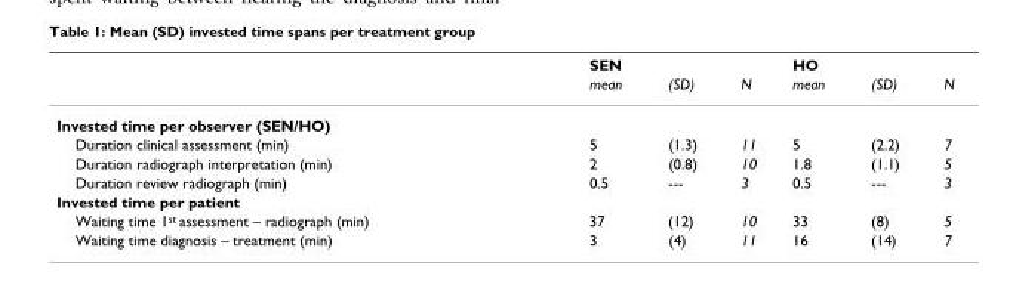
<table><thead><tr><td rowspan="2"></td><td colspan="3">SEN</td><td colspan="3">HO</td></tr><tr><td>mean</td><td>(SD)</td><td>N</td><td>mean</td><td>(SD)</td><td>N</td></tr></thead><tbody><tr><td colspan="7">Invested time per observer (SEN/HO)</td></tr><tr><td>Duration clinical assessment (min)</td><td>5</td><td>(1.3)</td><td>11</td><td>5</td><td>(2.2)</td><td>7</td></tr><tr><td>Duration radiograph interpretation (min)</td><td>2</td><td>(0.8)</td><td>10</td><td>1.8</td><td>(1.1)</td><td>5</td></tr><tr><td>Duration review radiograph (min)</td><td>0.5</td><td>---</td><td>3</td><td>0.5</td><td>---</td><td>3</td></tr><tr><td colspan="7">Invested time per patient</td></tr><tr><td>Waiting time 1<sup>st</sup> assessment – radiograph (min)</td><td>37</td><td>(12)</td><td>10</td><td>33</td><td>(8)</td><td>5</td></tr><tr><td>Waiting time diagnosis – treatment (min)</td><td>3</td><td>(4)</td><td>11</td><td>16</td><td>(14)</td><td>7</td></tr></tbody></table>